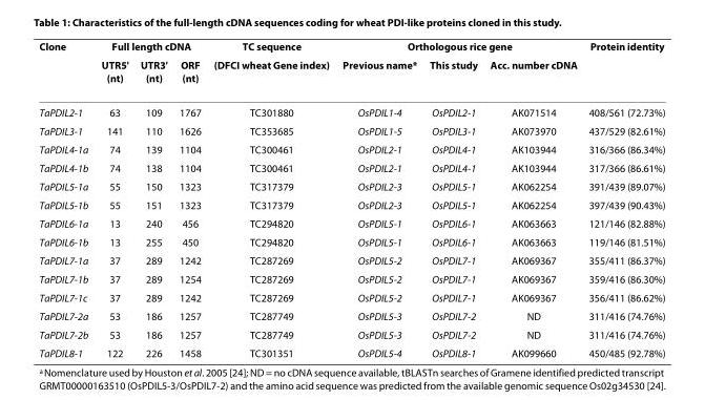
<table><thead><tr><td rowspan="2">Clone</td><td colspan="3">Full length cDNA</td><td rowspan="2">TC sequence (DFCI wheat Gene index)</td><td colspan="3">Orthologous rice gene</td><td rowspan="2">Protein identity</td></tr><tr><td>UTR5&#x27; (nt)</td><td>UTR3&#x27; (nt)</td><td>ORF (nt)</td><td>Previous name*</td><td>This study</td><td>Acc. number cDNA</td></tr></thead><tbody><tr><td>TaPDIL2-1</td><td>63</td><td>109</td><td>1767</td><td>TC301880</td><td>OsPDIL1-4</td><td>OsPDIL2-1</td><td>AK071514</td><td>408/561 (72.73%)</td></tr><tr><td>TaPDIL3-1</td><td>141</td><td>110</td><td>1626</td><td>TC353685</td><td>OsPDIL1-5</td><td>OsPDIL3-1</td><td>AK073970</td><td>437/529 (82.61%)</td></tr><tr><td>TaPDIL4-1a</td><td>74</td><td>139</td><td>1104</td><td>TC300461</td><td>OsPDIL2-1</td><td>OsPDIL4-1</td><td>AK103944</td><td>316/366 (86.34%)</td></tr><tr><td>TaPDIL4-1b</td><td>74</td><td>138</td><td>1104</td><td>TC300461</td><td>OsPDIL2-1</td><td>OsPDIL4-1</td><td>AK103944</td><td>317/366 (86.61%)</td></tr><tr><td>TaPDIL5-1a</td><td>55</td><td>150</td><td>1323</td><td>TC317379</td><td>OsPDIL2-3</td><td>OsPDIL5-1</td><td>AK062254</td><td>391/439 (89.07%)</td></tr><tr><td>TaPDIL5-1b</td><td>55</td><td>151</td><td>1323</td><td>TC317379</td><td>OsPDIL2-3</td><td>OsPDIL5-1</td><td>AK062254</td><td>397/439 (90.43%)</td></tr><tr><td>TaPDIL6-1a</td><td>13</td><td>240</td><td>456</td><td>TC294820</td><td>OsPDIL5-1</td><td>OsPDIL6-1</td><td>AK063663</td><td>121/146 (82.88%)</td></tr><tr><td>TaPDIL6-1b</td><td>13</td><td>255</td><td>450</td><td>TC294820</td><td>OsPDIL5-1</td><td>OsPDIL6-1</td><td>AK063663</td><td>119/146 (81.51%)</td></tr><tr><td>TaPDIL7-1a</td><td>37</td><td>289</td><td>1242</td><td>TC287269</td><td>OsPDIL5-2</td><td>OsPDIL7-1</td><td>AK069367</td><td>355/411 (86.37%)</td></tr><tr><td>TaPDIL7-1b</td><td>37</td><td>289</td><td>1254</td><td>TC287269</td><td>OsPDIL5-2</td><td>OsPDIL7-1</td><td>AK069367</td><td>359/416 (86.30%)</td></tr><tr><td>TaPDIL7-1c</td><td>37</td><td>289</td><td>1242</td><td>TC287269</td><td>OsPDIL5-2</td><td>OsPDIL7-1</td><td>AK069367</td><td>356/411 (86.62%)</td></tr><tr><td>TaPDIL7-2a</td><td>53</td><td>186</td><td>1257</td><td>TC287749</td><td>OsPDIL5-3</td><td>OsPDIL7-2</td><td>ND</td><td>311/416 (74.76%)</td></tr><tr><td>TaPDIL7-2b</td><td>53</td><td>186</td><td>1257</td><td>TC287749</td><td>OsPDIL5-3</td><td>OsPDIL7-2</td><td>ND</td><td>311/416 (74.76%)</td></tr><tr><td>TaPDIL8-1</td><td>122</td><td>226</td><td>1458</td><td>TC301351</td><td>OsPDIL5-4</td><td>OsPDIL8-1</td><td>AK099660</td><td>450/485 (92.78%)</td></tr></tbody></table>